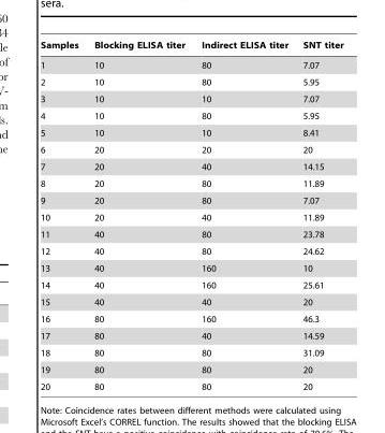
<table><thead><tr><td>Samples</td><td>Blocking ELISA titer</td><td>Indirect ELISA titer</td><td>SNT titer</td></tr></thead><tbody><tr><td>1</td><td>10</td><td>80</td><td>7.07</td></tr><tr><td>2</td><td>10</td><td>80</td><td>5.95</td></tr><tr><td>3</td><td>10</td><td>10</td><td>7.07</td></tr><tr><td>4</td><td>10</td><td>80</td><td>5.95</td></tr><tr><td>5</td><td>10</td><td>10</td><td>8.41</td></tr><tr><td>6</td><td>20</td><td>20</td><td>20</td></tr><tr><td>7</td><td>20</td><td>40</td><td>14.15</td></tr><tr><td>8</td><td>20</td><td>80</td><td>11.89</td></tr><tr><td>9</td><td>20</td><td>80</td><td>7.07</td></tr><tr><td>10</td><td>20</td><td>40</td><td>11.89</td></tr><tr><td>11</td><td>40</td><td>80</td><td>23.78</td></tr><tr><td>12</td><td>40</td><td>80</td><td>24.62</td></tr><tr><td>13</td><td>40</td><td>160</td><td>10</td></tr><tr><td>14</td><td>40</td><td>160</td><td>25.61</td></tr><tr><td>15</td><td>40</td><td>40</td><td>20</td></tr><tr><td>16</td><td>80</td><td>160</td><td>46.3</td></tr><tr><td>17</td><td>80</td><td>40</td><td>14.59</td></tr><tr><td>18</td><td>80</td><td>80</td><td>31.09</td></tr><tr><td>19</td><td>80</td><td>80</td><td>20</td></tr><tr><td>20</td><td>80</td><td>80</td><td>20</td></tr></tbody></table>